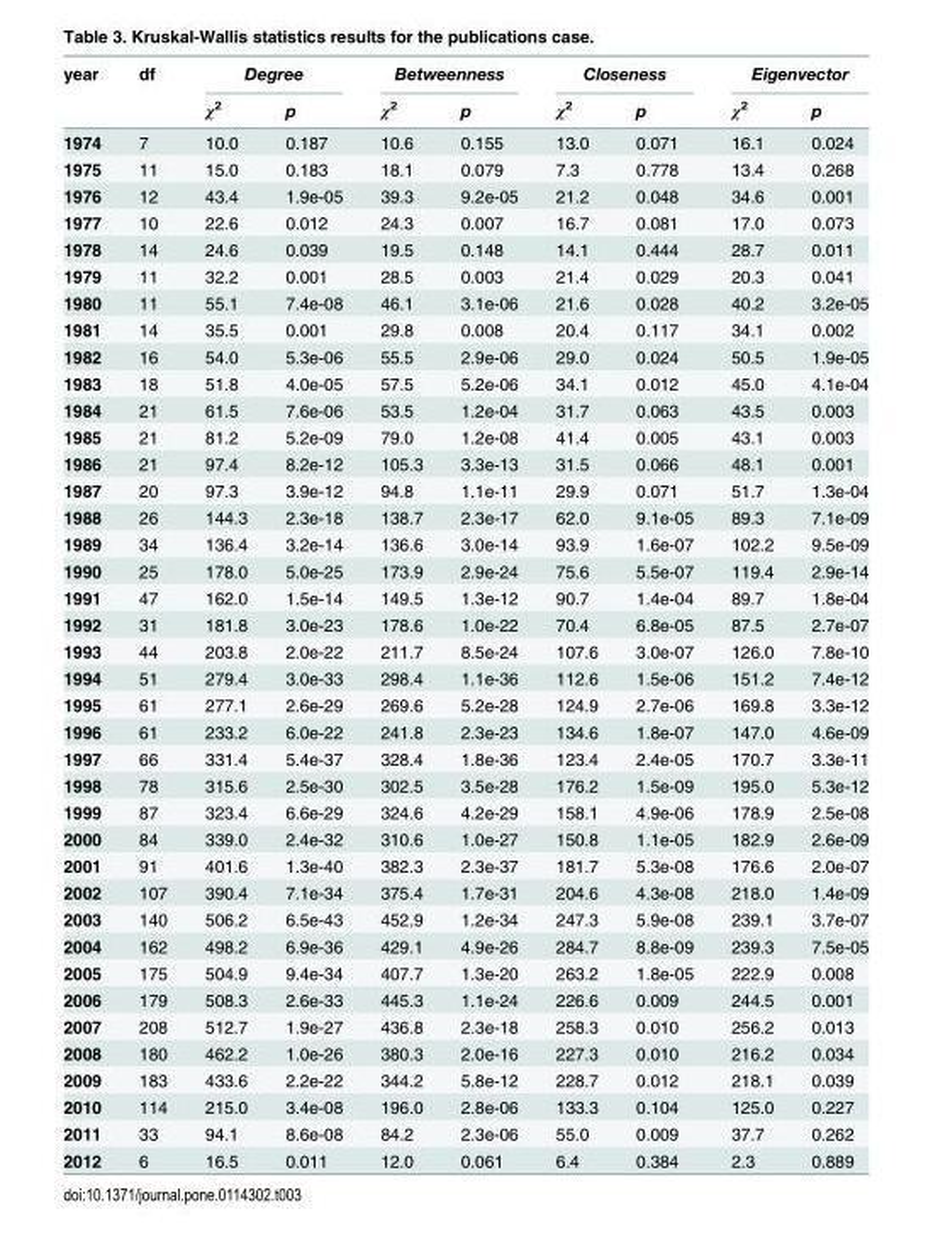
<table><thead><tr><td rowspan="2">year</td><td rowspan="2">df</td><td colspan="2">Degree</td><td colspan="2">Betweenness</td><td colspan="2">Closeness</td><td colspan="2">Eigenvector</td></tr><tr><td>χ<sup>2</sup></td><td>p</td><td>χ<sup>2</sup></td><td>p</td><td>χ<sup>2</sup></td><td>p</td><td>χ<sup>2</sup></td><td>p</td></tr></thead><tbody><tr><td>1974</td><td>7</td><td>10.0</td><td>0.187</td><td>10.6</td><td>0.155</td><td>13.0</td><td>0.071</td><td>16.1</td><td>0.024</td></tr><tr><td>1975</td><td>11</td><td>15.0</td><td>0.183</td><td>18.1</td><td>0.079</td><td>7.3</td><td>0.778</td><td>13.4</td><td>0.268</td></tr><tr><td>1976</td><td>12</td><td>43.4</td><td>1.9e-05</td><td>39.3</td><td>9.2e-05</td><td>21.2</td><td>0.048</td><td>34.6</td><td>0.001</td></tr><tr><td>1977</td><td>10</td><td>22.6</td><td>0.012</td><td>24.3</td><td>0.007</td><td>16.7</td><td>0.081</td><td>17.0</td><td>0.073</td></tr><tr><td>1978</td><td>14</td><td>24.6</td><td>0.039</td><td>19.5</td><td>0.148</td><td>14.1</td><td>0.444</td><td>28.7</td><td>0.011</td></tr><tr><td>1979</td><td>11</td><td>32.2</td><td>0.001</td><td>28.5</td><td>0.003</td><td>21.4</td><td>0.029</td><td>20.3</td><td>0.041</td></tr><tr><td>1980</td><td>11</td><td>55.1</td><td>7.4e-08</td><td>46.1</td><td>3.1e-06</td><td>21.6</td><td>0.028</td><td>40.2</td><td>3.2e-05</td></tr><tr><td>1981</td><td>14</td><td>35.5</td><td>0.001</td><td>29.8</td><td>0.008</td><td>20.4</td><td>0.117</td><td>34.1</td><td>0.002</td></tr><tr><td>1982</td><td>16</td><td>54.0</td><td>5.3e-06</td><td>55.5</td><td>2.9e-06</td><td>29.0</td><td>0.024</td><td>50.5</td><td>1.9e-05</td></tr><tr><td>1983</td><td>18</td><td>51.8</td><td>4.0e-05</td><td>57.5</td><td>5.2e-06</td><td>34.1</td><td>0.012</td><td>45.0</td><td>4.1e-04</td></tr><tr><td>1984</td><td>21</td><td>61.5</td><td>7.6e-06</td><td>53.5</td><td>1.2e-04</td><td>31.7</td><td>0.063</td><td>43.5</td><td>0.003</td></tr><tr><td>1985</td><td>21</td><td>81.2</td><td>5.2e-09</td><td>79.0</td><td>1.2e-08</td><td>41.4</td><td>0.005</td><td>43.1</td><td>0.003</td></tr><tr><td>1986</td><td>21</td><td>97.4</td><td>8.2e-12</td><td>105.3</td><td>3.3e-13</td><td>31.5</td><td>0.066</td><td>48.1</td><td>0.001</td></tr><tr><td>1987</td><td>20</td><td>97.3</td><td>3.9e-12</td><td>94.8</td><td>1.1e-11</td><td>29.9</td><td>0.071</td><td>51.7</td><td>1.3e-04</td></tr><tr><td>1988</td><td>26</td><td>144.3</td><td>2.3e-18</td><td>138.7</td><td>2.3e-17</td><td>62.0</td><td>9.1e-05</td><td>89.3</td><td>7.1e-09</td></tr><tr><td>1989</td><td>34</td><td>136.4</td><td>3.2e-14</td><td>136.6</td><td>3.0e-14</td><td>93.9</td><td>1.6e-07</td><td>102.2</td><td>9.5e-09</td></tr><tr><td>1990</td><td>25</td><td>178.0</td><td>5.0e-25</td><td>173.9</td><td>2.9e-24</td><td>75.6</td><td>5.5e-07</td><td>119.4</td><td>2.9e-14</td></tr><tr><td>1991</td><td>47</td><td>162.0</td><td>1.5e-14</td><td>149.5</td><td>1.3e-12</td><td>90.7</td><td>1.4e-04</td><td>89.7</td><td>1.8e-04</td></tr><tr><td>1992</td><td>31</td><td>181.8</td><td>3.0e-23</td><td>178.6</td><td>1.0e-22</td><td>70.4</td><td>6.8e-05</td><td>87.5</td><td>2.7e-07</td></tr><tr><td>1993</td><td>44</td><td>203.8</td><td>2.0e-22</td><td>211.7</td><td>8.5e-24</td><td>107.6</td><td>3.0e-07</td><td>126.0</td><td>7.8e-10</td></tr><tr><td>1994</td><td>51</td><td>279.4</td><td>3.0e-33</td><td>298.4</td><td>1.1e-36</td><td>112.6</td><td>1.5e-06</td><td>151.2</td><td>7.4e-12</td></tr><tr><td>1995</td><td>61</td><td>277.1</td><td>2.6e-29</td><td>269.6</td><td>5.2e-28</td><td>124.9</td><td>2.7e-06</td><td>169.8</td><td>3.3e-12</td></tr><tr><td>1996</td><td>61</td><td>233.2</td><td>6.0e-22</td><td>241.8</td><td>2.3e-23</td><td>134.6</td><td>1.8e-07</td><td>147.0</td><td>4.6e-09</td></tr><tr><td>1997</td><td>66</td><td>331.4</td><td>5.4e-37</td><td>328.4</td><td>1.8e-36</td><td>123.4</td><td>2.4e-05</td><td>170.7</td><td>3.3e-11</td></tr><tr><td>1998</td><td>78</td><td>315.6</td><td>2.5e-30</td><td>302.5</td><td>3.5e-28</td><td>176.2</td><td>1.5e-09</td><td>195.0</td><td>5.3e-12</td></tr><tr><td>1999</td><td>87</td><td>323.4</td><td>6.6e-29</td><td>324.6</td><td>4.2e-29</td><td>158.1</td><td>4.9e-06</td><td>178.9</td><td>2.5e-08</td></tr><tr><td>2000</td><td>84</td><td>339.0</td><td>2.4e-32</td><td>310.6</td><td>1.0e-27</td><td>150.8</td><td>1.1e-05</td><td>182.9</td><td>2.6e-09</td></tr><tr><td>2001</td><td>91</td><td>401.6</td><td>1.3e-40</td><td>382.3</td><td>2.3e-37</td><td>181.7</td><td>5.3e-08</td><td>176.6</td><td>2.0e-07</td></tr><tr><td>2002</td><td>107</td><td>390.4</td><td>7.1e-34</td><td>375.4</td><td>1.7e-31</td><td>204.6</td><td>4.3e-08</td><td>218.0</td><td>1.4e-09</td></tr><tr><td>2003</td><td>140</td><td>506.2</td><td>6.5e-43</td><td>452.9</td><td>1.2e-34</td><td>247.3</td><td>5.9e-08</td><td>239.1</td><td>3.7e-07</td></tr><tr><td>2004</td><td>162</td><td>498.2</td><td>6.9e-36</td><td>429.1</td><td>4.9e-26</td><td>284.7</td><td>8.8e-09</td><td>239.3</td><td>7.5e-05</td></tr><tr><td>2005</td><td>175</td><td>504.9</td><td>9.4e-34</td><td>407.7</td><td>1.3e-20</td><td>263.2</td><td>1.8e-05</td><td>222.9</td><td>0.008</td></tr><tr><td>2006</td><td>179</td><td>508.3</td><td>2.6e-33</td><td>445.3</td><td>1.1e-24</td><td>226.6</td><td>0.009</td><td>244.5</td><td>0.001</td></tr><tr><td>2007</td><td>208</td><td>512.7</td><td>1.9e-27</td><td>436.8</td><td>2.3e-18</td><td>258.3</td><td>0.010</td><td>256.2</td><td>0.013</td></tr><tr><td>2008</td><td>180</td><td>462.2</td><td>1.0e-26</td><td>380.3</td><td>2.0e-16</td><td>227.3</td><td>0.010</td><td>216.2</td><td>0.034</td></tr><tr><td>2009</td><td>183</td><td>433.6</td><td>2.2e-22</td><td>344.2</td><td>5.8e-12</td><td>228.7</td><td>0.012</td><td>218.1</td><td>0.039</td></tr><tr><td>2010</td><td>114</td><td>215.0</td><td>3.4e-08</td><td>196.0</td><td>2.8e-06</td><td>133.3</td><td>0.104</td><td>125.0</td><td>0.227</td></tr><tr><td>2011</td><td>33</td><td>94.1</td><td>8.6e-08</td><td>84.2</td><td>2.3e-06</td><td>55.0</td><td>0.009</td><td>37.7</td><td>0.262</td></tr><tr><td>2012</td><td>6</td><td>16.5</td><td>0.011</td><td>12.0</td><td>0.061</td><td>6.4</td><td>0.384</td><td>2.3</td><td>0.889</td></tr></tbody></table>